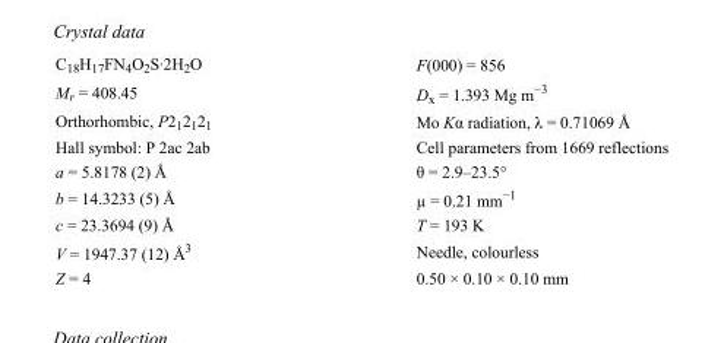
<table><tbody><tr><td>C<sub>18</sub>H<sub>17</sub>FN<sub>4</sub>O<sub>2</sub>S·2H<sub>2</sub>O</td><td>F(000) = 856</td></tr><tr><td>M<sub>r</sub> = 408.45</td><td>D<sub>x</sub> = 1.393 Mg m<sup>−3</sup></td></tr><tr><td>Orthorhombic, P2<sub>1</sub>2<sub>1</sub>2<sub>1</sub></td><td>Mo Kα radiation, λ = 0.71069 Å</td></tr><tr><td>Hall symbol: P 2ac 2ab</td><td>Cell parameters from 1669 reflections</td></tr><tr><td>a = 5.8178 (2) Å</td><td>θ = 2.9–23.5°</td></tr><tr><td>b = 14.3233 (5) Å</td><td>µ = 0.21 mm<sup>−1</sup></td></tr><tr><td>c = 23.3694 (9) Å</td><td>T = 193 K</td></tr><tr><td>V = 1947.37 (12) Å<sup>3</sup></td><td>Needle, colourless</td></tr><tr><td>Z = 4</td><td>0.50 × 0.10 × 0.10 mm</td></tr></tbody></table>